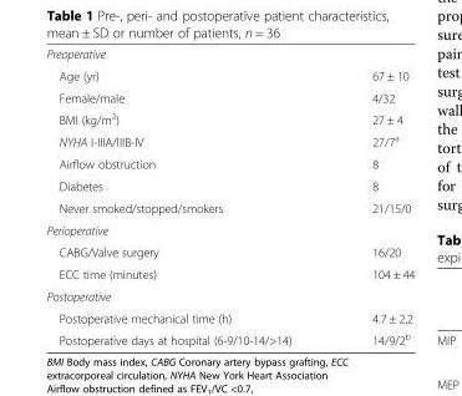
<table><tbody><tr><td colspan="2">Preoperative</td></tr><tr><td>Age (yr)</td><td>67 ± 10</td></tr><tr><td>Female/male</td><td>4/32</td></tr><tr><td>BMI (kg/m<sup>2</sup>)</td><td>27 ± 4</td></tr><tr><td>NYHA I-IIIA/IIIB-IV</td><td>27/7<sup>a</sup></td></tr><tr><td>Airflow obstruction</td><td>8</td></tr><tr><td>Diabetes</td><td>8</td></tr><tr><td>Never smoked/stopped/smokers</td><td>21/15/0</td></tr><tr><td colspan="2">Perioperative</td></tr><tr><td>CABG/Valve surgery</td><td>16/20</td></tr><tr><td>ECC time (minutes)</td><td>104 ± 44</td></tr><tr><td colspan="2">Postoperative</td></tr><tr><td>Postoperative mechanical time (h)</td><td>4.7 ± 2,2</td></tr><tr><td>Postoperative days at hospital (6-9/10-14/&gt;14)</td><td>14/9/2<sup>b</sup></td></tr></tbody></table>